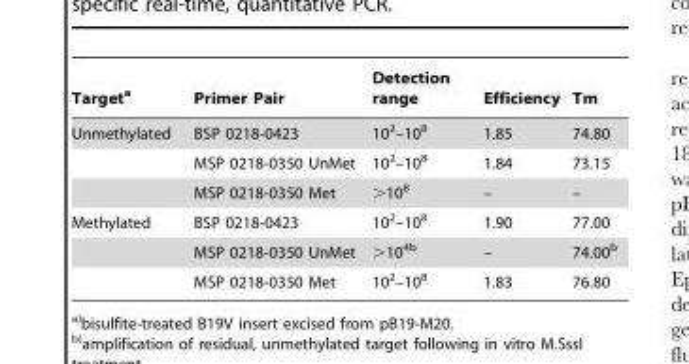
<table><thead><tr><td>Target<sup>a</sup></td><td>Primer Pair</td><td>Detection range</td><td>Efficiency</td><td>Tm</td></tr></thead><tbody><tr><td rowspan="3">Unmethylated</td><td>BSP 0218-0423</td><td>10<sup>2</sup>–10<sup>8</sup></td><td>1.85</td><td>74.80</td></tr><tr><td>MSP 0218-0350 UnMet</td><td>10<sup>2</sup>–10<sup>8</sup></td><td>1.84</td><td>73.15</td></tr><tr><td>MSP 0218-0350 Met</td><td>&gt;10<sup>8</sup></td><td>–</td><td>–</td></tr><tr><td rowspan="3">Methylated</td><td>BSP 0218-0423</td><td>10<sup>2</sup>–10<sup>8</sup></td><td>1.90</td><td>77.00</td></tr><tr><td>MSP 0218-0350 UnMet</td><td>&gt;10<sup>4</sup>b</td><td>–</td><td>74.00<sup>b</sup></td></tr><tr><td>MSP 0218-0350 Met</td><td>10<sup>2</sup>–10<sup>8</sup></td><td>1.83</td><td>76.80</td></tr></tbody></table>